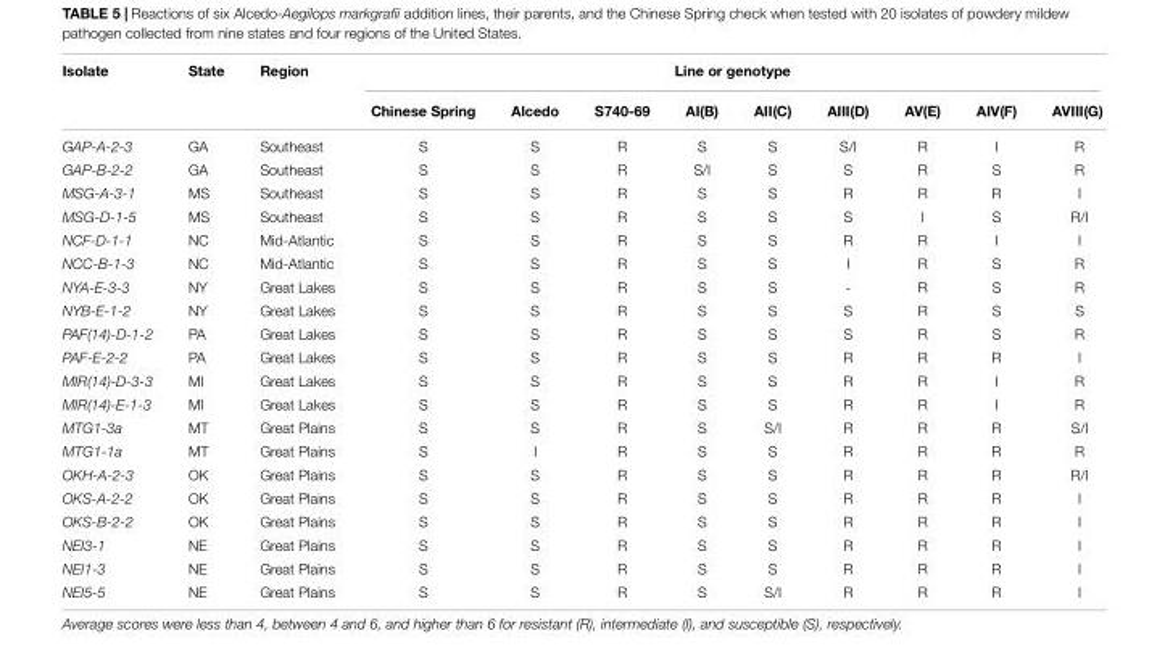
<table><thead><tr><td rowspan="2">Isolate</td><td rowspan="2">State</td><td rowspan="2">Region</td><td colspan="9">Line or genotype</td></tr><tr><td>Chinese Spring</td><td>Alcedo</td><td>S740-69</td><td>AI(B)</td><td>AII(C)</td><td>AIII(D)</td><td>AV(E)</td><td>AIV(F)</td><td>AVIII(G)</td></tr></thead><tbody><tr><td>GAP-A-2-3</td><td>GA</td><td>Southeast</td><td>S</td><td>S</td><td>R</td><td>S</td><td>S</td><td>S/I</td><td>R</td><td>I</td><td>R</td></tr><tr><td>GAP-B-2-2</td><td>GA</td><td>Southeast</td><td>S</td><td>S</td><td>R</td><td>S/I</td><td>S</td><td>S</td><td>R</td><td>S</td><td>R</td></tr><tr><td>MSG-A-3-1</td><td>MS</td><td>Southeast</td><td>S</td><td>S</td><td>R</td><td>S</td><td>S</td><td>R</td><td>R</td><td>R</td><td>I</td></tr><tr><td>MSG-D-1-5</td><td>MS</td><td>Southeast</td><td>S</td><td>S</td><td>R</td><td>S</td><td>S</td><td>S</td><td>I</td><td>S</td><td>R/I</td></tr><tr><td>NCF-D-1-1</td><td>NC</td><td>Mid-Atlantic</td><td>S</td><td>S</td><td>R</td><td>S</td><td>S</td><td>R</td><td>R</td><td>I</td><td>I</td></tr><tr><td>NCC-B-1-3</td><td>NC</td><td>Mid-Atlantic</td><td>S</td><td>S</td><td>R</td><td>S</td><td>S</td><td>I</td><td>R</td><td>S</td><td>R</td></tr><tr><td>NYA-E-3-3</td><td>NY</td><td>Great Lakes</td><td>S</td><td>S</td><td>R</td><td>S</td><td>S</td><td>-</td><td>R</td><td>S</td><td>R</td></tr><tr><td>NYB-E-1-2</td><td>NY</td><td>Great Lakes</td><td>S</td><td>S</td><td>R</td><td>S</td><td>S</td><td>S</td><td>R</td><td>S</td><td>S</td></tr><tr><td>PAF(14)-D-1-2</td><td>PA</td><td>Great Lakes</td><td>S</td><td>S</td><td>R</td><td>S</td><td>S</td><td>S</td><td>R</td><td>S</td><td>R</td></tr><tr><td>PAF-E-2-2</td><td>PA</td><td>Great Lakes</td><td>S</td><td>S</td><td>R</td><td>S</td><td>S</td><td>R</td><td>R</td><td>R</td><td>I</td></tr><tr><td>MIR(14)-D-3-3</td><td>MI</td><td>Great Lakes</td><td>S</td><td>S</td><td>R</td><td>S</td><td>S</td><td>R</td><td>R</td><td>I</td><td>R</td></tr><tr><td>MIR(14)-E-1-3</td><td>MI</td><td>Great Lakes</td><td>S</td><td>S</td><td>R</td><td>S</td><td>S</td><td>R</td><td>R</td><td>I</td><td>R</td></tr><tr><td>MTG1-3a</td><td>MT</td><td>Great Plains</td><td>S</td><td>S</td><td>R</td><td>S</td><td>S/I</td><td>R</td><td>R</td><td>R</td><td>S/I</td></tr><tr><td>MTG1-1a</td><td>MT</td><td>Great Plains</td><td>S</td><td>I</td><td>R</td><td>S</td><td>S</td><td>R</td><td>R</td><td>R</td><td>R</td></tr><tr><td>OKH-A-2-3</td><td>OK</td><td>Great Plains</td><td>S</td><td>S</td><td>R</td><td>S</td><td>S</td><td>R</td><td>R</td><td>R</td><td>R/I</td></tr><tr><td>OKS-A-2-2</td><td>OK</td><td>Great Plains</td><td>S</td><td>S</td><td>R</td><td>S</td><td>S</td><td>R</td><td>R</td><td>R</td><td>I</td></tr><tr><td>OKS-B-2-2</td><td>OK</td><td>Great Plains</td><td>S</td><td>S</td><td>R</td><td>S</td><td>S</td><td>R</td><td>R</td><td>R</td><td>I</td></tr><tr><td>NEI3-1</td><td>NE</td><td>Great Plains</td><td>S</td><td>S</td><td>R</td><td>S</td><td>S</td><td>R</td><td>R</td><td>R</td><td>I</td></tr><tr><td>NEI1-3</td><td>NE</td><td>Great Plains</td><td>S</td><td>S</td><td>R</td><td>S</td><td>S</td><td>R</td><td>R</td><td>R</td><td>I</td></tr><tr><td>NEI5-5</td><td>NE</td><td>Great Plains</td><td>S</td><td>S</td><td>R</td><td>S</td><td>S/I</td><td>R</td><td>R</td><td>R</td><td>I</td></tr></tbody></table>